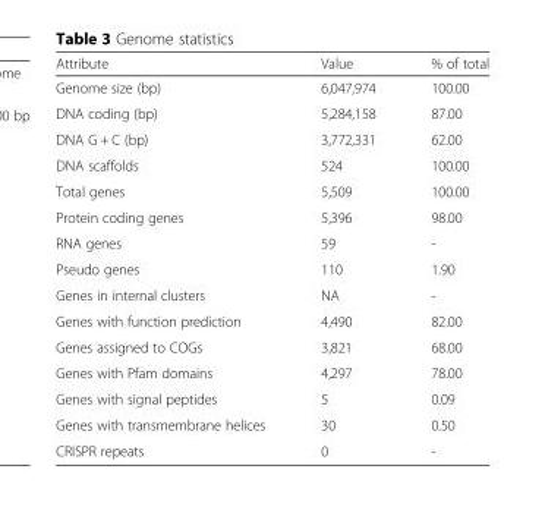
<table><thead><tr><td>Attribute</td><td>Value</td><td>% of total</td></tr></thead><tbody><tr><td>Genome size (bp)</td><td>6,047,974</td><td>100.00</td></tr><tr><td>DNA coding (bp)</td><td>5,284,158</td><td>87.00</td></tr><tr><td>DNA G + C (bp)</td><td>3,772,331</td><td>62.00</td></tr><tr><td>DNA scaffolds</td><td>524</td><td>100.00</td></tr><tr><td>Total genes</td><td>5,509</td><td>100.00</td></tr><tr><td>Protein coding genes</td><td>5,396</td><td>98.00</td></tr><tr><td>RNA genes</td><td>59</td><td>-</td></tr><tr><td>Pseudo genes</td><td>110</td><td>1.90</td></tr><tr><td>Genes in internal clusters</td><td>NA</td><td>-</td></tr><tr><td>Genes with function prediction</td><td>4,490</td><td>82.00</td></tr><tr><td>Genes assigned to COGs</td><td>3,821</td><td>68.00</td></tr><tr><td>Genes with Pfam domains</td><td>4,297</td><td>78.00</td></tr><tr><td>Genes with signal peptides</td><td>5</td><td>0.09</td></tr><tr><td>Genes with transmembrane helices</td><td>30</td><td>0.50</td></tr><tr><td>CRISPR repeats</td><td>0</td><td>-</td></tr></tbody></table>